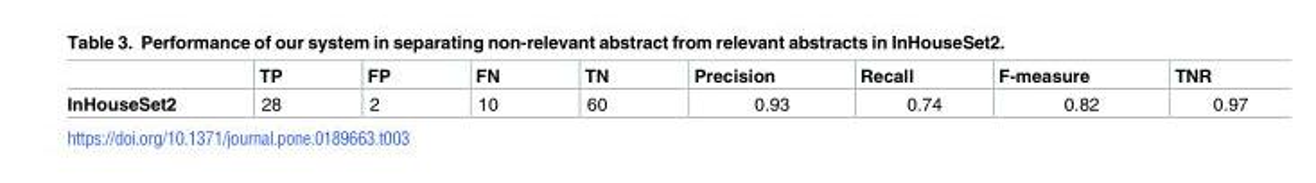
<table><thead><tr><td></td><td>TP</td><td>FP</td><td>FN</td><td>TN</td><td>Precision</td><td>Recall</td><td>F-measure</td><td>TNR</td></tr></thead><tbody><tr><td>InHouseSet2</td><td>28</td><td>2</td><td>10</td><td>60</td><td>0.93</td><td>0.74</td><td>0.82</td><td>0.97</td></tr></tbody></table>